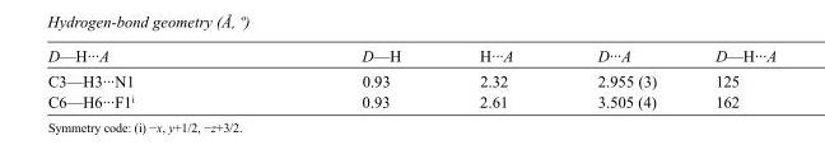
<table><tbody><tr><td>D—H···A</td><td>D—H</td><td>H···A</td><td>D···A</td><td>D—H···A</td></tr><tr><td>C3—H3···N1</td><td>0.93</td><td>2.32</td><td>2.955 (3)</td><td>125</td></tr><tr><td>C6—H6···F1<sup>i</sup></td><td>0.93</td><td>2.61</td><td>3.505 (4)</td><td>162</td></tr></tbody></table>